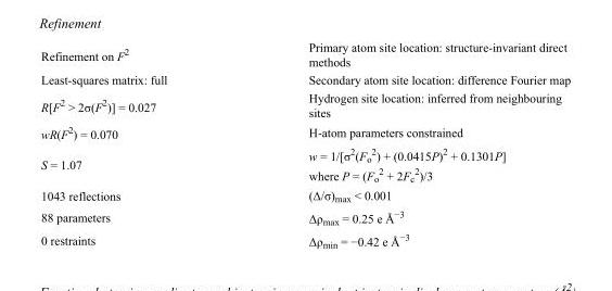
<table><tbody><tr><td>Refinement on F<sup>2</sup></td><td>Primary atom site location: structure-invariant direct methods</td></tr><tr><td>Least-squares matrix: full</td><td>Secondary atom site location: difference Fourier map</td></tr><tr><td>R[F<sup>2</sup> &gt; 2σ(F<sup>2</sup>)] = 0.027</td><td>Hydrogen site location: inferred from neighbouring sites</td></tr><tr><td>wR(F<sup>2</sup>) = 0.070</td><td>H-atom parameters constrained</td></tr><tr><td>S = 1.07</td><td>w = 1/[σ<sup>2</sup>(F<sub>o</sub> <sup>2</sup>) + (0.0415P)<sup>2</sup> + 0.1301P] where P = (F<sub>o</sub> <sup>2</sup> + 2F<sub>c</sub> <sup>2</sup>)/3</td></tr><tr><td>1043 reflections</td><td>(Δ/σ)<sub>max</sub> &lt; 0.001</td></tr><tr><td>88 parameters</td><td>Δρ<sub>max</sub> = 0.25 e Å<sup>−3</sup></td></tr><tr><td>0 restraints</td><td>Δρ<sub>min</sub> = −0.42 e Å<sup>−3</sup></td></tr></tbody></table>